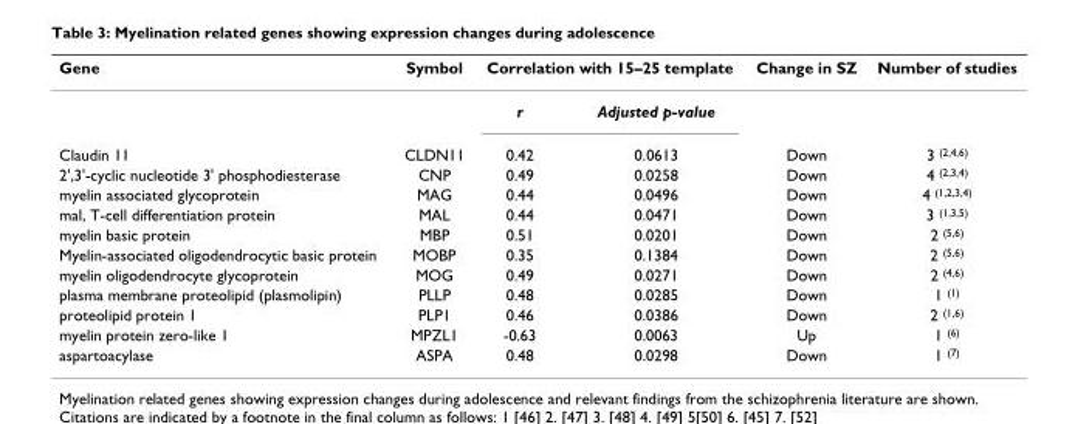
<table><thead><tr><td rowspan="2">Gene</td><td rowspan="2">Symbol</td><td colspan="2">Correlation with 15–25 template</td><td rowspan="2">Change in SZ</td><td rowspan="2">Number of studies</td></tr><tr><td>r</td><td>Adjusted p-value</td></tr></thead><tbody><tr><td>Claudin 11</td><td>CLDN11</td><td>0.42</td><td>0.0613</td><td>Down</td><td>3 <sup>(2,4,6)</sup></td></tr><tr><td>2&#x27;,3&#x27;-cyclic nucleotide 3&#x27; phosphodiesterase</td><td>CNP</td><td>0.49</td><td>0.0258</td><td>Down</td><td>4 <sup>(2,3,4)</sup></td></tr><tr><td>myelin associated glycoprotein</td><td>MAG</td><td>0.44</td><td>0.0496</td><td>Down</td><td>4 <sup>(1,2,3,4)</sup></td></tr><tr><td>mal, T-cell differentiation protein</td><td>MAL</td><td>0.44</td><td>0.0471</td><td>Down</td><td>3 <sup>(1,3,5)</sup></td></tr><tr><td>myelin basic protein</td><td>MBP</td><td>0.51</td><td>0.0201</td><td>Down</td><td>2 <sup>(5,6)</sup></td></tr><tr><td>Myelin-associated oligodendrocytic basic protein</td><td>MOBP</td><td>0.35</td><td>0.1384</td><td>Down</td><td>2 <sup>(5,6)</sup></td></tr><tr><td>myelin oligodendrocyte glycoprotein</td><td>MOG</td><td>0.49</td><td>0.0271</td><td>Down</td><td>2 <sup>(4,6)</sup></td></tr><tr><td>plasma membrane proteolipid (plasmolipin)</td><td>PLLP</td><td>0.48</td><td>0.0285</td><td>Down</td><td>1 <sup>(1)</sup></td></tr><tr><td>proteolipid protein 1</td><td>PLP1</td><td>0.46</td><td>0.0386</td><td>Down</td><td>2 <sup>(1,6)</sup></td></tr><tr><td>myelin protein zero-like 1</td><td>MPZL1</td><td>-0.63</td><td>0.0063</td><td>Up</td><td>1 <sup>(6)</sup></td></tr><tr><td>aspartoacylase</td><td>ASPA</td><td>0.48</td><td>0.0298</td><td>Down</td><td>1 <sup>(7)</sup></td></tr></tbody></table>